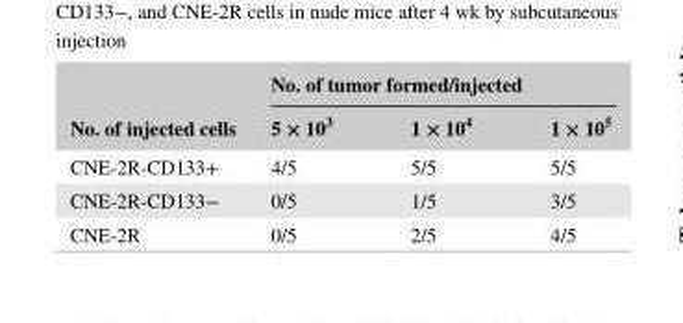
<table><thead><tr><td rowspan="2">No. of injected cells</td><td colspan="3">No. of tumor formed/injected</td></tr><tr><td>5 × 10<sup>3</sup></td><td>1 × 10<sup>4</sup></td><td>1 × 10<sup>5</sup></td></tr></thead><tbody><tr><td>CNE- 2R- CD133+</td><td>4/5</td><td>5/5</td><td>5/5</td></tr><tr><td>CNE- 2R- CD133−</td><td>0/5</td><td>1/5</td><td>3/5</td></tr><tr><td>CNE- 2R</td><td>0/5</td><td>2/5</td><td>4/5</td></tr></tbody></table>